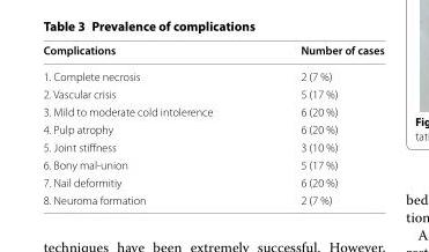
<table><thead><tr><td>Complications</td><td>Number of cases</td></tr></thead><tbody><tr><td>1. Complete necrosis</td><td>2 (7 %)</td></tr><tr><td>2. Vascular crisis</td><td>5 (17 %)</td></tr><tr><td>3. Mild to moderate cold intolerence</td><td>6 (20 %)</td></tr><tr><td>4. Pulp atrophy</td><td>6 (20 %)</td></tr><tr><td>5. Joint stiffness</td><td>3 (10 %)</td></tr><tr><td>6. Bony mal‑union</td><td>5 (17 %)</td></tr><tr><td>7. Nail deformitiy</td><td>6 (20 %)</td></tr><tr><td>8. Neuroma formation</td><td>2 (7 %)</td></tr></tbody></table>